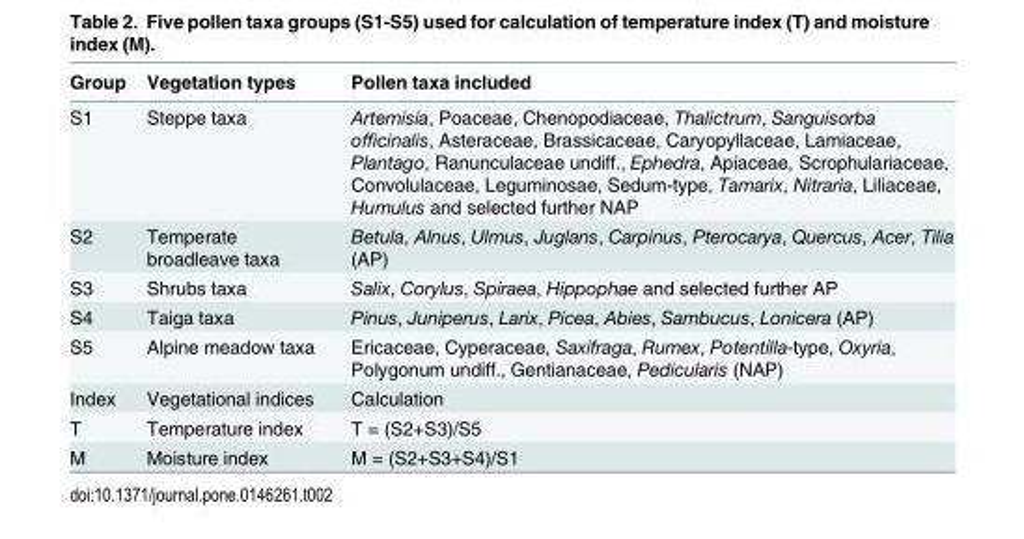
<table><thead><tr><td>Group</td><td>Vegetation types</td><td>Pollen taxa included</td></tr></thead><tbody><tr><td>S1</td><td>Steppe taxa</td><td>Artemisia, Poaceae, Chenopodiaceae, Thalictrum, Sanguisorba officinalis, Asteraceae, Brassicaceae, Caryopyllaceae, Lamiaceae, Plantago, Ranunculaceae undiff., Ephedra, Apiaceae, Scrophulariaceae, Convolulaceae, Leguminosae, Sedum-type, Tamarix, Nitraria, Liliaceae, Humulus and selected further NAP</td></tr><tr><td>S2</td><td>Temperate broadleave taxa</td><td>Betula, Alnus, Ulmus, Juglans, Carpinus, Pterocarya, Quercus, Acer, Tilia (AP)</td></tr><tr><td>S3</td><td>Shrubs taxa</td><td>Salix, Corylus, Spiraea, Hippophae and selected further AP</td></tr><tr><td>S4</td><td>Taiga taxa</td><td>Pinus, Juniperus, Larix, Picea, Abies, Sambucus, Lonicera (AP)</td></tr><tr><td>S5</td><td>Alpine meadow taxa</td><td>Ericaceae, Cyperaceae, Saxifraga, Rumex, Potentilla-type, Oxyria, Polygonum undiff., Gentianaceae, Pedicularis (NAP)</td></tr><tr><td>Index</td><td>Vegetational indices</td><td>Calculation</td></tr><tr><td>T</td><td>Temperature index</td><td>T = (S2+S3)/S5</td></tr><tr><td>M</td><td>Moisture index</td><td>M = (S2+S3+S4)/S1</td></tr></tbody></table>